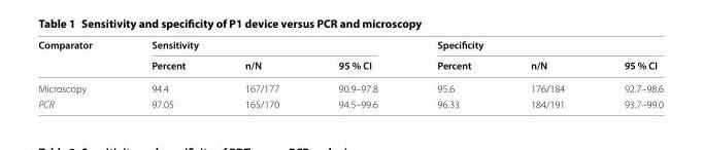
<table><thead><tr><td rowspan="2">Comparator</td><td colspan="3">Sensitivity</td><td colspan="3">Specificity</td></tr><tr><td>Percent</td><td>n/N</td><td>95 % CI</td><td>Percent</td><td>n/N</td><td>95 % CI</td></tr></thead><tbody><tr><td>Microscopy</td><td>94.4</td><td>167/177</td><td>90.9–97.8</td><td>95.6</td><td>176/184</td><td>92.7–98.6</td></tr><tr><td>PCR</td><td>97.05</td><td>165/170</td><td>94.5–99.6</td><td>96.33</td><td>184/191</td><td>93.7–99.0</td></tr></tbody></table>